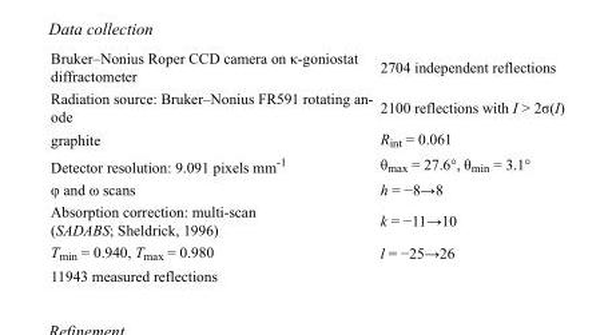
<table><tbody><tr><td>Bruker–Nonius Roper CCD camera on κ-goniostat diffractometer</td><td>2704 independent reflections</td></tr><tr><td>Radiation source: Bruker–Nonius FR591 rotating an- ode</td><td>2100 reflections with I &gt; 2σ(I)</td></tr><tr><td>graphite</td><td>R<sub>int</sub> = 0.061</td></tr><tr><td>Detector resolution: 9.091 pixels mm<sup>-1</sup></td><td>θ<sub>max</sub> = 27.6°, θ<sub>min</sub> = 3.1°</td></tr><tr><td>φ and ω scans</td><td>h = −8→8</td></tr><tr><td>Absorption correction: multi-scan (SADABS; Sheldrick, 1996)</td><td>k = −11→10</td></tr><tr><td>T<sub>min</sub> = 0.940, T<sub>max</sub> = 0.980</td><td>l = −25→26</td></tr><tr><td>11943 measured reflections</td><td></td></tr></tbody></table>